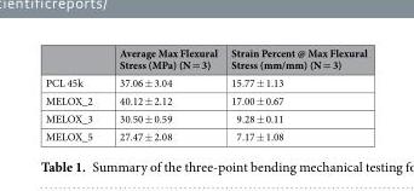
<table><thead><tr><td></td><td>Average Max Flexural Stress (MPa) (N = 3)</td><td>Strain Percent @ Max Flexural Stress (mm/mm) (N = 3)</td></tr></thead><tbody><tr><td>PCL 45k</td><td>37.06 ± 3.04</td><td>15.77 ± 1.13</td></tr><tr><td>MELOX_2</td><td>40.12 ± 2.12</td><td>17.00 ± 0.67</td></tr><tr><td>MELOX_3</td><td>30.50 ± 0.59</td><td>9.28 ± 0.11</td></tr><tr><td>MELOX_5</td><td>27.47 ± 2.08</td><td>7.17 ± 1.08</td></tr></tbody></table>